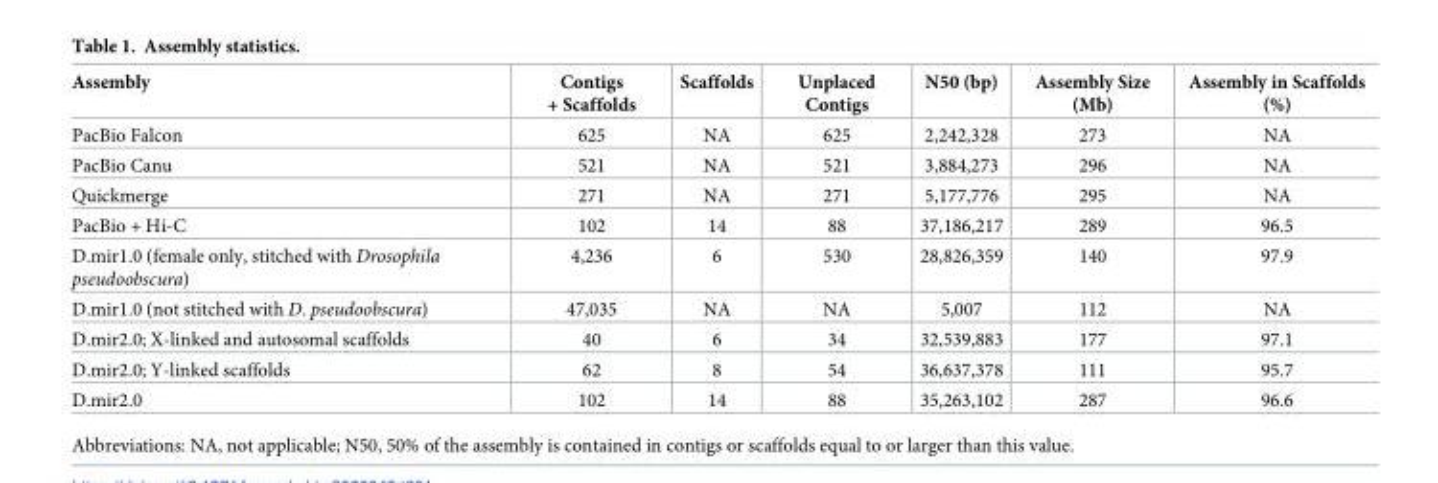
<table><thead><tr><td>Assembly</td><td>Contigs + Scaffolds</td><td>Scaffolds</td><td>Unplaced Contigs</td><td>N50 (bp)</td><td>Assembly Size (Mb)</td><td>Assembly in Scaffolds (%)</td></tr></thead><tbody><tr><td>PacBio Falcon</td><td>625</td><td>NA</td><td>625</td><td>2,242,328</td><td>273</td><td>NA</td></tr><tr><td>PacBio Canu</td><td>521</td><td>NA</td><td>521</td><td>3,884,273</td><td>296</td><td>NA</td></tr><tr><td>Quickmerge</td><td>271</td><td>NA</td><td>271</td><td>5,177,776</td><td>295</td><td>NA</td></tr><tr><td>PacBio + Hi-C</td><td>102</td><td>14</td><td>88</td><td>37,186,217</td><td>289</td><td>96.5</td></tr><tr><td>D.mir1.0 (female only, stitched with Drosophila pseudoobscura)</td><td>4,236</td><td>6</td><td>530</td><td>28,826,359</td><td>140</td><td>97.9</td></tr><tr><td>D.mir1.0 (not stitched with D. pseudoobscura)</td><td>47,035</td><td>NA</td><td>NA</td><td>5,007</td><td>112</td><td>NA</td></tr><tr><td>D.mir2.0; X-linked and autosomal scaffolds</td><td>40</td><td>6</td><td>34</td><td>32,539,883</td><td>177</td><td>97.1</td></tr><tr><td>D.mir2.0; Y-linked scaffolds</td><td>62</td><td>8</td><td>54</td><td>36,637,378</td><td>111</td><td>95.7</td></tr><tr><td>D.mir2.0</td><td>102</td><td>14</td><td>88</td><td>35,263,102</td><td>287</td><td>96.6</td></tr></tbody></table>